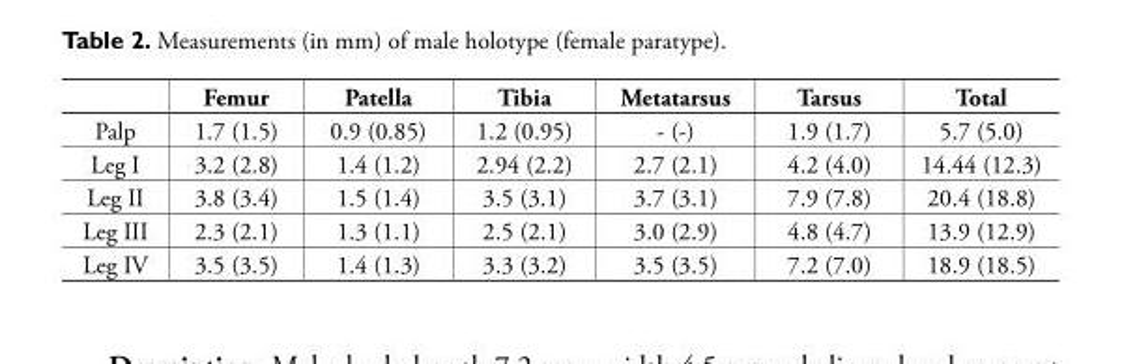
<table><thead><tr><td></td><td>Femur</td><td>Patella</td><td>Tibia</td><td>Metatarsus</td><td>Tarsus</td><td>Total</td></tr></thead><tbody><tr><td>Palp</td><td>1.7 (1.5)</td><td>0.9 (0.85)</td><td>1.2 (0.95)</td><td>- (-)</td><td>1.9 (1.7)</td><td>5.7 (5.0)</td></tr><tr><td>Leg I</td><td>3.2 (2.8)</td><td>1.4 (1.2)</td><td>2.94 (2.2)</td><td>2.7 (2.1)</td><td>4.2 (4.0)</td><td>14.44 (12.3)</td></tr><tr><td>Leg II</td><td>3.8 (3.4)</td><td>1.5 (1.4)</td><td>3.5 (3.1)</td><td>3.7 (3.1)</td><td>7.9 (7.8)</td><td>20.4 (18.8)</td></tr><tr><td>Leg III</td><td>2.3 (2.1)</td><td>1.3 (1.1)</td><td>2.5 (2.1)</td><td>3.0 (2.9)</td><td>4.8 (4.7)</td><td>13.9 (12.9)</td></tr><tr><td>Leg IV</td><td>3.5 (3.5)</td><td>1.4 (1.3)</td><td>3.3 (3.2)</td><td>3.5 (3.5)</td><td>7.2 (7.0)</td><td>18.9 (18.5)</td></tr></tbody></table>